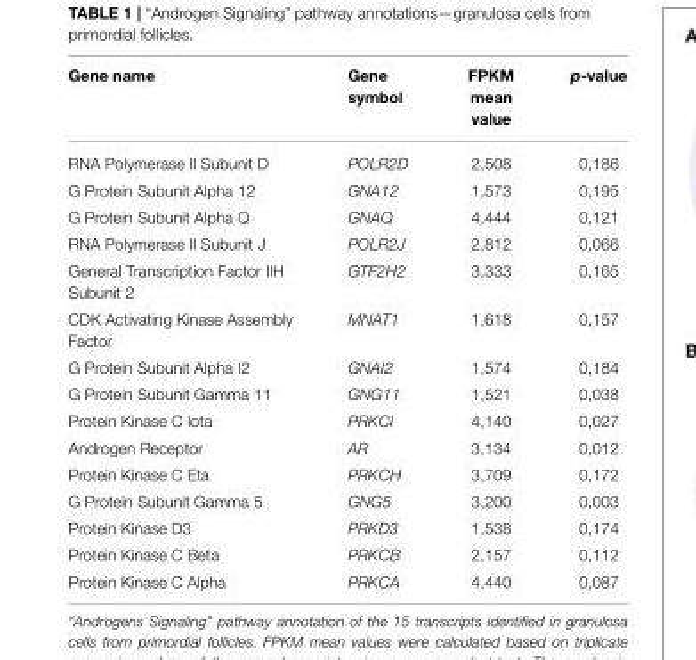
<table><thead><tr><td>Gene name</td><td>Gene symbol</td><td>FPKM mean value</td><td>p-value</td></tr></thead><tbody><tr><td>RNA Polymerase II Subunit D</td><td>POLR2D</td><td>2,508</td><td>0,186</td></tr><tr><td>G Protein Subunit Alpha 12</td><td>GNA12</td><td>1,573</td><td>0,195</td></tr><tr><td>G Protein Subunit Alpha Q</td><td>GNAQ</td><td>4,444</td><td>0,121</td></tr><tr><td>RNA Polymerase II Subunit J</td><td>POLR2J</td><td>2,812</td><td>0,066</td></tr><tr><td>General Transcription Factor IIH Subunit 2</td><td>GTF2H2</td><td>3,333</td><td>0,165</td></tr><tr><td>CDK Activating Kinase Assembly Factor</td><td>MNAT1</td><td>1,618</td><td>0,157</td></tr><tr><td>G Protein Subunit Alpha I2</td><td>GNAI2</td><td>1,574</td><td>0,184</td></tr><tr><td>G Protein Subunit Gamma 11</td><td>GNG11</td><td>1,521</td><td>0,038</td></tr><tr><td>Protein Kinase C Iota</td><td>PRKCI</td><td>4,140</td><td>0,027</td></tr><tr><td>Androgen Receptor</td><td>AR</td><td>3,134</td><td>0,012</td></tr><tr><td>Protein Kinase C Eta</td><td>PRKCH</td><td>3,709</td><td>0,172</td></tr><tr><td>G Protein Subunit Gamma 5</td><td>GNG5</td><td>3,200</td><td>0,003</td></tr><tr><td>Protein Kinase D3</td><td>PRKD3</td><td>1,538</td><td>0,174</td></tr><tr><td>Protein Kinase C Beta</td><td>PRKCB</td><td>2,157</td><td>0,112</td></tr><tr><td>Protein Kinase C Alpha</td><td>PRKCA</td><td>4,440</td><td>0,087</td></tr></tbody></table>